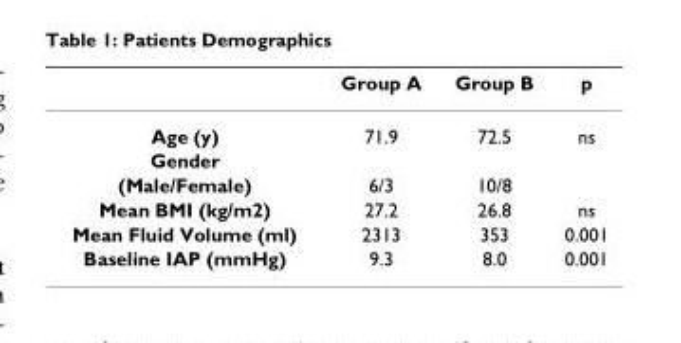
<table><thead><tr><td></td><td>Group A</td><td>Group B</td><td>p</td></tr></thead><tbody><tr><td>Age (y)</td><td>71.9</td><td>72.5</td><td>ns</td></tr><tr><td colspan="4">Gender</td></tr><tr><td>(Male/Female)</td><td>6/3</td><td>10/8</td><td></td></tr><tr><td>Mean BMI (kg/m2)</td><td>27.2</td><td>26.8</td><td>ns</td></tr><tr><td>Mean Fluid Volume (ml)</td><td>2313</td><td>353</td><td>0.001</td></tr><tr><td>Baseline IAP (mmHg)</td><td>9.3</td><td>8.0</td><td>0.001</td></tr></tbody></table>